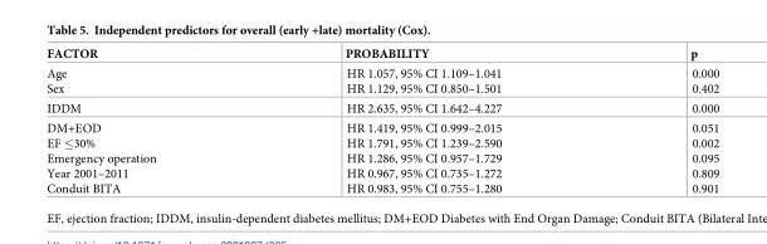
<table><thead><tr><td>FACTOR</td><td>PROBABILITY</td><td>p</td></tr></thead><tbody><tr><td>Age Sex</td><td>HR 1.057, 95% CI 1.109–1.041 HR 1.129, 95% CI 0.850–1.501</td><td>0.000 0.402</td></tr><tr><td>IDDM</td><td>HR 2.635, 95% CI 1.642–4.227</td><td>0.000</td></tr><tr><td>DM+EOD EF ≤30% Emergency operation Year 2001–2011 Conduit BITA</td><td>HR 1.419, 95% CI 0.999–2.015 HR 1.791, 95% CI 1.239–2.590 HR 1.286, 95% CI 0.957–1.729 HR 0.967, 95% CI 0.735–1.272 HR 0.983, 95% CI 0.755–1.280</td><td>0.051 0.002 0.095 0.809 0.901</td></tr></tbody></table>